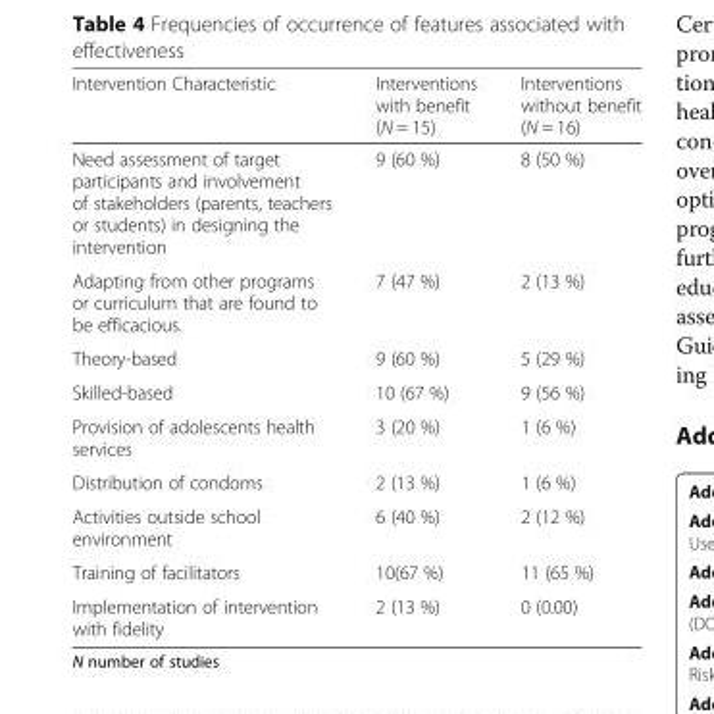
<table><thead><tr><td>Intervention Characteristic</td><td>Interventions with benefit (N = 15)</td><td>Interventions without benefit (N = 16)</td></tr></thead><tbody><tr><td>Need assessment of target participants and involvement of stakeholders (parents, teachers or students) in designing the intervention</td><td>9 (60 %)</td><td>8 (50 %)</td></tr><tr><td>Adapting from other programs or curriculum that are found to be efficacious.</td><td>7 (47 %)</td><td>2 (13 %)</td></tr><tr><td>Theory-based</td><td>9 (60 %)</td><td>5 (29 %)</td></tr><tr><td>Skilled-based</td><td>10 (67 %)</td><td>9 (56 %)</td></tr><tr><td>Provision of adolescents health services</td><td>3 (20 %)</td><td>1 (6 %)</td></tr><tr><td>Distribution of condoms</td><td>2 (13 %)</td><td>1 (6 %)</td></tr><tr><td>Activities outside school environment</td><td>6 (40 %)</td><td>2 (12 %)</td></tr><tr><td>Training of facilitators</td><td>10(67 %)</td><td>11 (65 %)</td></tr><tr><td>Implementation of intervention with fidelity</td><td>2 (13 %)</td><td>0 (0.00)</td></tr></tbody></table>